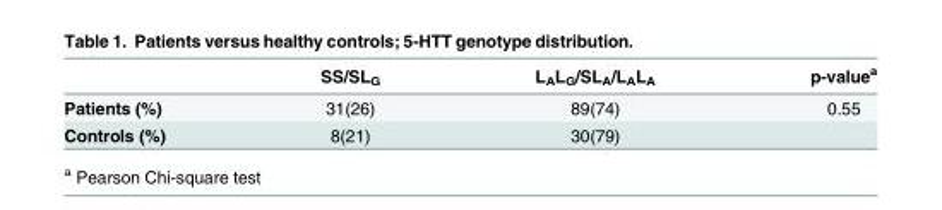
<table><thead><tr><td></td><td>SS/SL<sub>G</sub></td><td>L<sub>A</sub>L<sub>G</sub>/SL<sub>A</sub>/L<sub>A</sub>L<sub>A</sub></td><td>p-value<sup>a</sup></td></tr></thead><tbody><tr><td>Patients (%)</td><td>31(26)</td><td>89(74)</td><td>0.55</td></tr><tr><td>Controls (%)</td><td>8(21)</td><td>30(79)</td><td></td></tr></tbody></table>